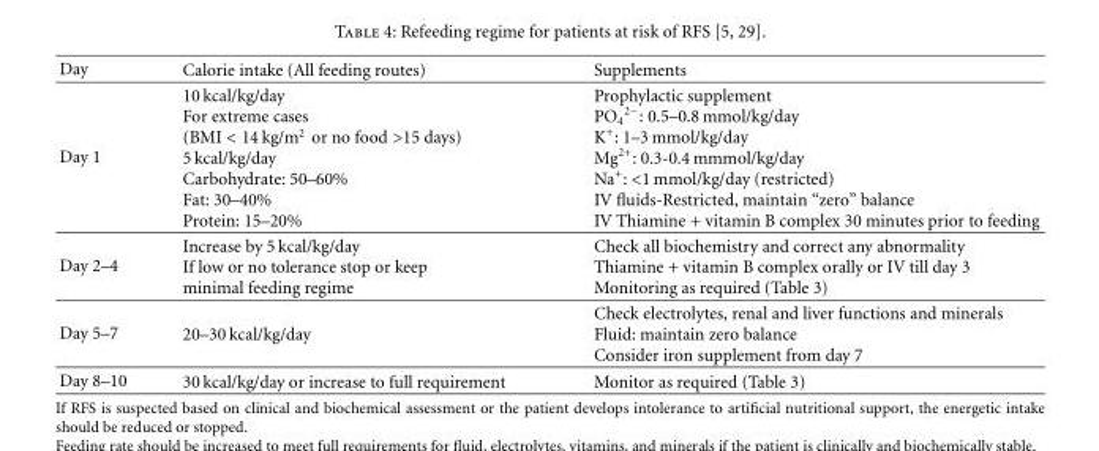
<table><thead><tr><td>Day</td><td>Calorie intake (All feeding routes)</td><td>Supplements</td></tr></thead><tbody><tr><td>Day 1</td><td>10 kcal/kg/day For extreme cases (BMI &lt; 14 kg/m<sup>2</sup> or no food &gt;15 days) 5 kcal/kg/day Carbohydrate: 50–60% Fat: 30–40% Protein: 15–20%</td><td>Prophylactic supplement PO<sub>4</sub> <sup>2−</sup>: 0.5–0.8 mmol/kg/day K<sup>+</sup>: 1–3 mmol/kg/day Mg<sup>2+</sup>: 0.3-0.4 mmmol/kg/day Na<sup>+</sup>: &lt;1 mmol/kg/day (restricted) IV fluids-Restricted, maintain “zero” balance IV Thiamine + vitamin B complex 30 minutes prior to feeding</td></tr><tr><td>Day 2–4</td><td>Increase by 5 kcal/kg/day If low or no tolerance stop or keep minimal feeding regime</td><td>Check all biochemistry and correct any abnormality Thiamine + vitamin B complex orally or IV till day 3 Monitoring as required (Table 3)</td></tr><tr><td>Day 5–7</td><td>20–30 kcal/kg/day</td><td>Check electrolytes, renal and liver functions and minerals Fluid: maintain zero balance Consider iron supplement from day 7</td></tr><tr><td>Day 8–10</td><td>30 kcal/kg/day or increase to full requirement</td><td>Monitor as required (Table 3)</td></tr></tbody></table>